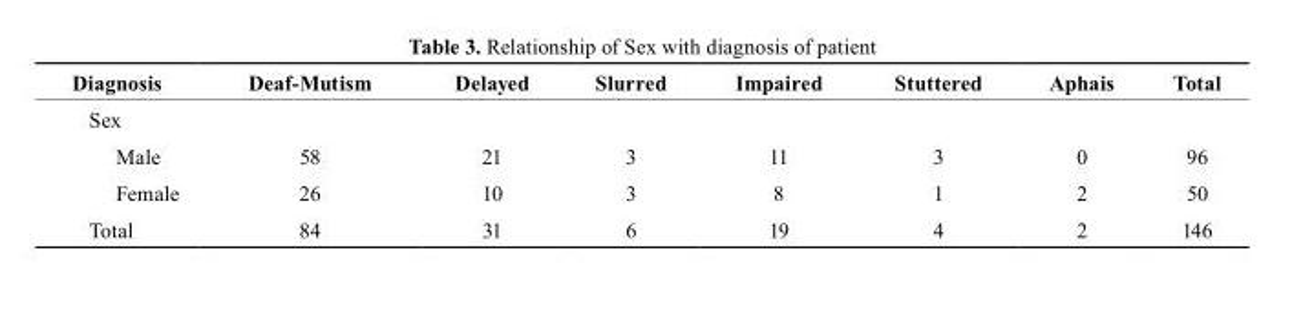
<table><thead><tr><td>Diagnosis</td><td>Deaf-Mutism</td><td>Delayed</td><td>slurred</td><td>Impaired</td><td>stuttered</td><td>Aphais</td><td>total</td></tr></thead><tbody><tr><td colspan="8">Sex</td></tr><tr><td>Male</td><td>58</td><td>21</td><td>3</td><td>11</td><td>3</td><td>0</td><td>96</td></tr><tr><td>Female</td><td>26</td><td>10</td><td>3</td><td>8</td><td>1</td><td>2</td><td>50</td></tr><tr><td>Total</td><td>84</td><td>31</td><td>6</td><td>19</td><td>4</td><td>2</td><td>146</td></tr></tbody></table>